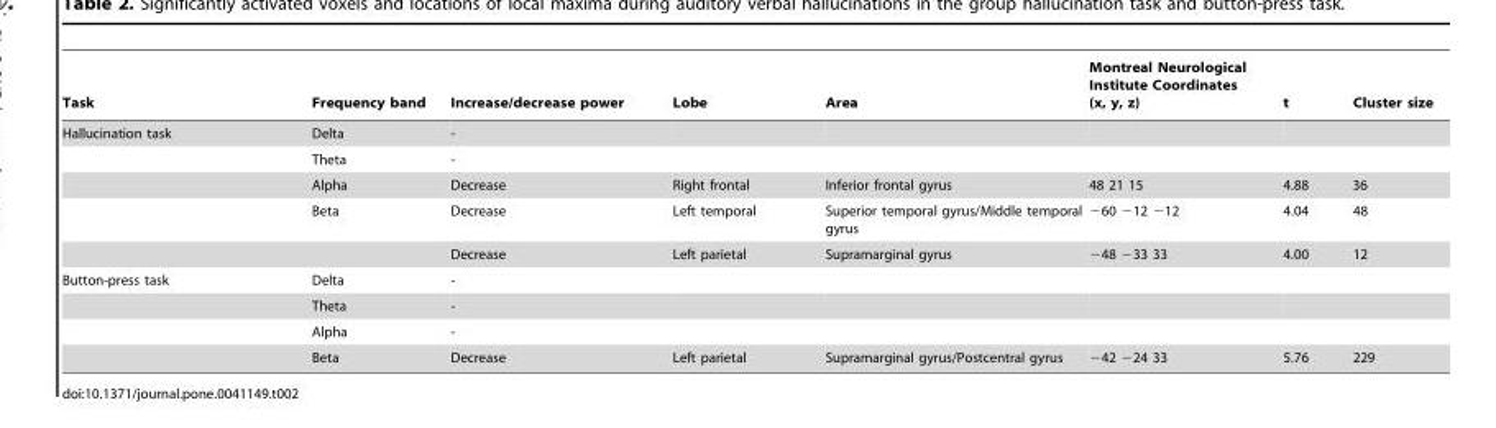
<table><thead><tr><td>Task</td><td>Frequency band</td><td>Increase/decrease power</td><td>Lobe</td><td>Area</td><td>Montreal Neurological Institute Coordinates (x, y, z)</td><td>t</td><td>Cluster size</td></tr></thead><tbody><tr><td rowspan="5">Hallucination task</td><td>Delta</td><td>-</td><td></td><td></td><td></td><td></td><td></td></tr><tr><td>Theta</td><td>-</td><td></td><td></td><td></td><td></td><td></td></tr><tr><td>Alpha</td><td>Decrease</td><td>Right frontal</td><td>Inferior frontal gyrus</td><td>48 21 15</td><td>4.88</td><td>36</td></tr><tr><td>Beta</td><td>Decrease</td><td>Left temporal</td><td>Superior temporal gyrus/Middle temporal gyrus</td><td>−60 −12 −12</td><td>4.04</td><td>48</td></tr><tr><td></td><td>Decrease</td><td>Left parietal</td><td>Supramarginal gyrus</td><td>−48 −33 33</td><td>4.00</td><td>12</td></tr><tr><td rowspan="4">Button-press task</td><td>Delta</td><td>-</td><td></td><td></td><td></td><td></td><td></td></tr><tr><td>Theta</td><td>-</td><td></td><td></td><td></td><td></td><td></td></tr><tr><td>Alpha</td><td>-</td><td></td><td></td><td></td><td></td><td></td></tr><tr><td>Beta</td><td>Decrease</td><td>Left parietal</td><td>Supramarginal gyrus/Postcentral gyrus</td><td>−42 −24 33</td><td>5.76</td><td>229</td></tr></tbody></table>